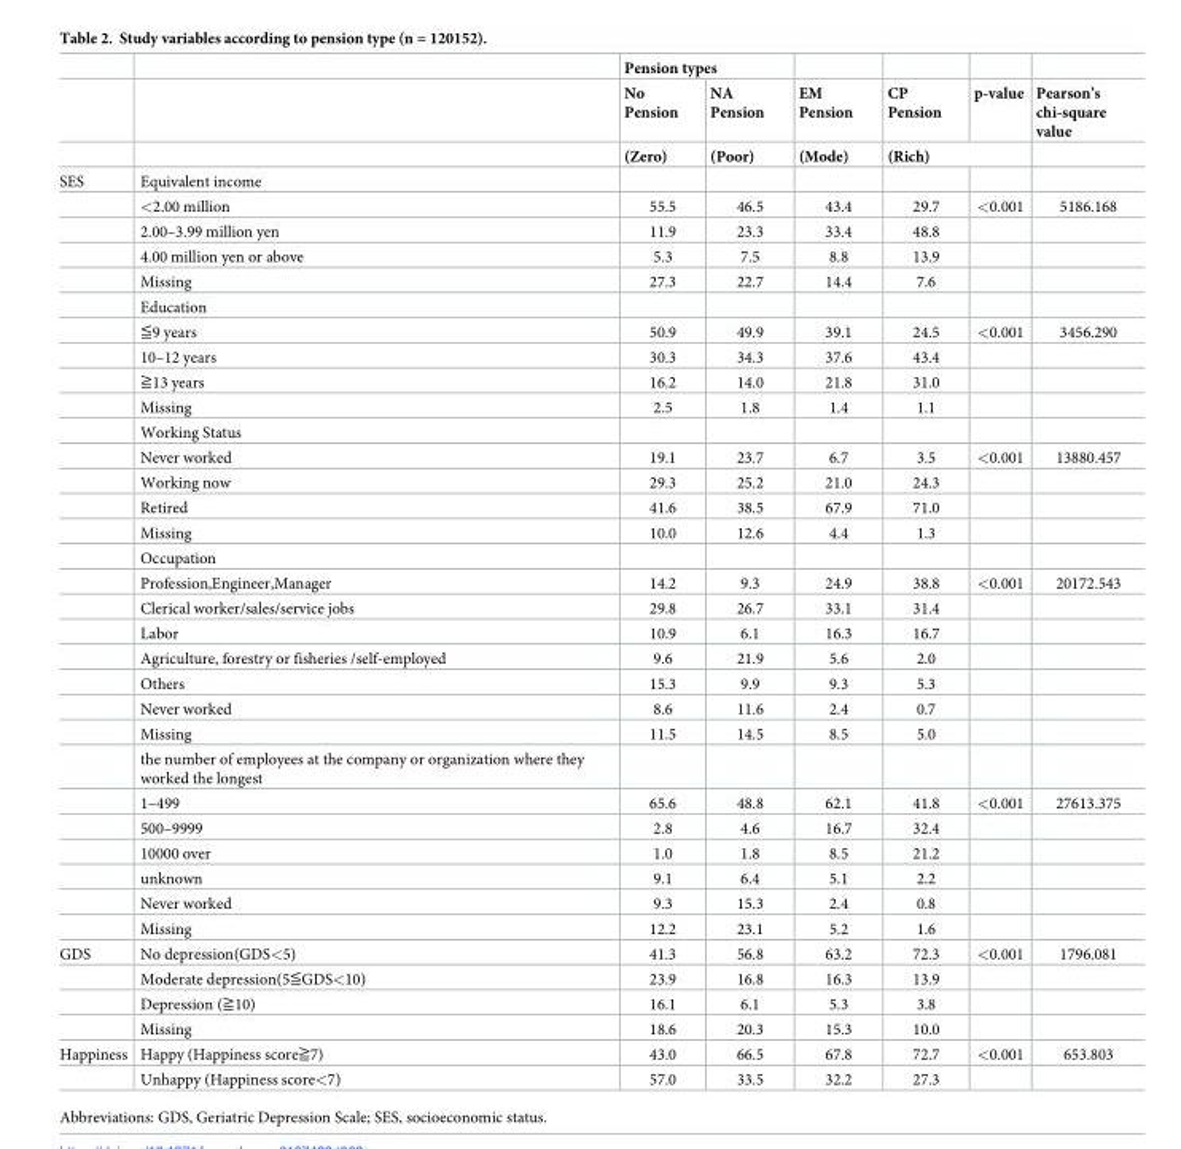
<table><thead><tr><td rowspan="3"></td><td rowspan="3"></td><td colspan="2">Pension types</td><td rowspan="3">EM Pension (Mode)</td><td rowspan="2">CP Pension</td><td rowspan="2">p-value</td><td rowspan="3">Pearson’s chi-square value</td></tr><tr><td rowspan="2">No Pension (Zero)</td><td rowspan="2">NA Pension (Poor)</td></tr><tr><td colspan="2">(Rich)</td></tr></thead><tbody><tr><td rowspan="30">SES</td><td>Equivalent income</td><td></td><td></td><td></td><td></td><td></td><td></td></tr><tr><td>&lt;2.00 million</td><td>55.5</td><td>46.5</td><td>43.4</td><td>29.7</td><td>&lt;0.001</td><td>5186.168</td></tr><tr><td>2.00–3.99 million yen</td><td>11.9</td><td>23.3</td><td>33.4</td><td>48.8</td><td></td><td></td></tr><tr><td>4.00 million yen or above</td><td>5.3</td><td>7.5</td><td>8.8</td><td>13.9</td><td></td><td></td></tr><tr><td>Missing</td><td>27.3</td><td>22.7</td><td>14.4</td><td>7.6</td><td></td><td></td></tr><tr><td>Education</td><td></td><td></td><td></td><td></td><td></td><td></td></tr><tr><td>≦9 years</td><td>50.9</td><td>49.9</td><td>39.1</td><td>24.5</td><td>&lt;0.001</td><td>3456.290</td></tr><tr><td>10–12 years</td><td>30.3</td><td>34.3</td><td>37.6</td><td>43.4</td><td></td><td></td></tr><tr><td>≧13 years</td><td>16.2</td><td>14.0</td><td>21.8</td><td>31.0</td><td></td><td></td></tr><tr><td>Missing</td><td>2.5</td><td>1.8</td><td>1.4</td><td>1.1</td><td></td><td></td></tr><tr><td>Working Status</td><td></td><td></td><td></td><td></td><td></td><td></td></tr><tr><td>Never worked</td><td>19.1</td><td>23.7</td><td>6.7</td><td>3.5</td><td>&lt;0.001</td><td>13880.457</td></tr><tr><td>Working now</td><td>29.3</td><td>25.2</td><td>21.0</td><td>24.3</td><td></td><td></td></tr><tr><td>Retired</td><td>41.6</td><td>38.5</td><td>67.9</td><td>71.0</td><td></td><td></td></tr><tr><td>Missing</td><td>10.0</td><td>12.6</td><td>4.4</td><td>1.3</td><td></td><td></td></tr><tr><td>Occupation</td><td></td><td></td><td></td><td></td><td></td><td></td></tr><tr><td>Profession,Engineer,Manager</td><td>14.2</td><td>9.3</td><td>24.9</td><td>38.8</td><td>&lt;0.001</td><td>20172.543</td></tr><tr><td>Clerical worker/sales/service jobs</td><td>29.8</td><td>26.7</td><td>33.1</td><td>31.4</td><td></td><td></td></tr><tr><td>Labor</td><td>10.9</td><td>6.1</td><td>16.3</td><td>16.7</td><td></td><td></td></tr><tr><td>Agriculture, forestry or fisheries /self-employed</td><td>9.6</td><td>21.9</td><td>5.6</td><td>2.0</td><td></td><td></td></tr><tr><td>Others</td><td>15.3</td><td>9.9</td><td>9.3</td><td>5.3</td><td></td><td></td></tr><tr><td>Never worked</td><td>8.6</td><td>11.6</td><td>2.4</td><td>0.7</td><td></td><td></td></tr><tr><td>Missing</td><td>11.5</td><td>14.5</td><td>8.5</td><td>5.0</td><td></td><td></td></tr><tr><td>the number of employees at the company or organization where they worked the longest</td><td></td><td></td><td></td><td></td><td></td><td></td></tr><tr><td>1–499</td><td>65.6</td><td>48.8</td><td>62.1</td><td>41.8</td><td>&lt;0.001</td><td>27613.375</td></tr><tr><td>500–9999</td><td>2.8</td><td>4.6</td><td>16.7</td><td>32.4</td><td></td><td></td></tr><tr><td>10000 over</td><td>1.0</td><td>1.8</td><td>8.5</td><td>21.2</td><td></td><td></td></tr><tr><td>unknown</td><td>9.1</td><td>6.4</td><td>5.1</td><td>2.2</td><td></td><td></td></tr><tr><td>Never worked</td><td>9.3</td><td>15.3</td><td>2.4</td><td>0.8</td><td></td><td></td></tr><tr><td>Missing</td><td>12.2</td><td>23.1</td><td>5.2</td><td>1.6</td><td></td><td></td></tr><tr><td rowspan="4">GDS</td><td>No depression(GDS&lt;5)</td><td>41.3</td><td>56.8</td><td>63.2</td><td>72.3</td><td>&lt;0.001</td><td>1796.081</td></tr><tr><td>Moderate depression(5≦GDS&lt;10)</td><td>23.9</td><td>16.8</td><td>16.3</td><td>13.9</td><td></td><td></td></tr><tr><td>Depression (≧10)</td><td>16.1</td><td>6.1</td><td>5.3</td><td>3.8</td><td></td><td></td></tr><tr><td>Missing</td><td>18.6</td><td>20.3</td><td>15.3</td><td>10.0</td><td></td><td></td></tr><tr><td rowspan="2">Happiness</td><td>Happy (Happiness score≧7)</td><td>43.0</td><td>66.5</td><td>67.8</td><td>72.7</td><td>&lt;0.001</td><td>653.803</td></tr><tr><td>Unhappy (Happiness score&lt;7)</td><td>57.0</td><td>33.5</td><td>32.2</td><td>27.3</td><td></td><td></td></tr></tbody></table>